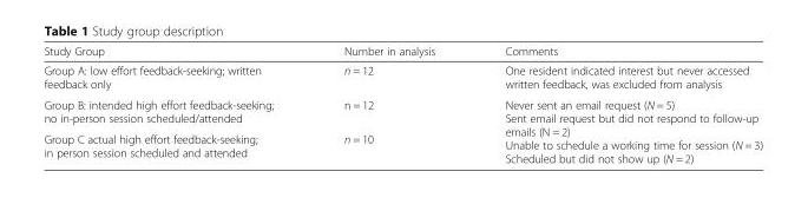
<table><thead><tr><td>Study Group</td><td>Number in analysis</td><td>Comments</td></tr></thead><tbody><tr><td>Group A: low effort feedback-seeking; written feedback only</td><td>n = 12</td><td>One resident indicated interest but never accessed written feedback, was excluded from analysis</td></tr><tr><td>Group B: intended high effort feedback-seeking; no in-person session scheduled/attended</td><td>n = 12</td><td rowspan="2">Never sent an email request (N = 5) Sent email request but did not respond to follow-up emails (N = 2) Unable to schedule a working time for session (N = 3) Scheduled but did not show up (N = 2)</td></tr><tr><td>Group C actual high effort feedback-seeking; in person session scheduled and attended</td><td>n = 10</td></tr></tbody></table>